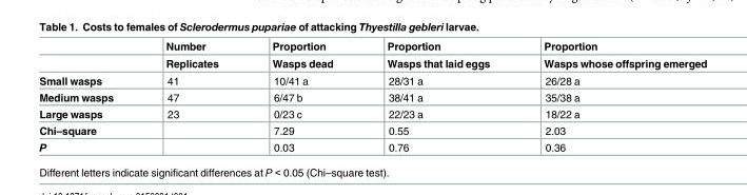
<table><thead><tr><td rowspan="2"></td><td rowspan="2">Number Replicates</td><td rowspan="2">Proportion Wasps dead</td><td rowspan="2">Proportion Wasps that laid eggs</td><td rowspan="2">Proportion Wasps whose offspring emerged</td></tr><tr></tr></thead><tbody><tr><td>Small wasps</td><td>41</td><td>10/41 a</td><td>28/31 a</td><td>26/28 a</td></tr><tr><td>Medium wasps</td><td>47</td><td>6/47 b</td><td>38/41 a</td><td>35/38 a</td></tr><tr><td>Large wasps</td><td>23</td><td>0/23 c</td><td>22/23 a</td><td>18/22 a</td></tr><tr><td>Chi–square</td><td></td><td>7.29</td><td>0.55</td><td>2.03</td></tr><tr><td>P</td><td></td><td>0.03</td><td>0.76</td><td>0.36</td></tr></tbody></table>